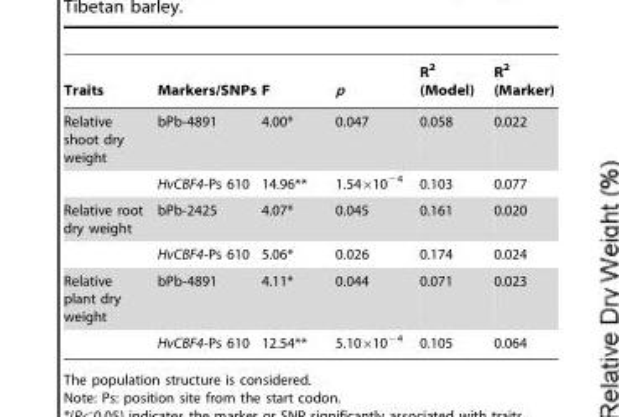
<table><thead><tr><td>Traits</td><td>Markers/SNPs</td><td>F</td><td>p</td><td>R<sup>2</sup> (Model)</td><td>R<sup>2</sup> (Marker)</td></tr></thead><tbody><tr><td rowspan="2">Relative shoot dry weight</td><td>bPb-4891</td><td>4.00*</td><td>0.047</td><td>0.058</td><td>0.022</td></tr><tr><td>HvCBF4-Ps 610</td><td>14.96**</td><td>1.54×10<sup>−4</sup></td><td>0.103</td><td>0.077</td></tr><tr><td rowspan="2">Relative root dry weight</td><td>bPb-2425</td><td>4.07*</td><td>0.045</td><td>0.161</td><td>0.020</td></tr><tr><td>HvCBF4-Ps 610</td><td>5.06*</td><td>0.026</td><td>0.174</td><td>0.024</td></tr><tr><td rowspan="2">Relative plant dry weight</td><td>bPb-4891</td><td>4.11*</td><td>0.044</td><td>0.071</td><td>0.023</td></tr><tr><td>HvCBF4-Ps 610</td><td>12.54**</td><td>5.10×10<sup>−4</sup></td><td>0.105</td><td>0.064</td></tr></tbody></table>